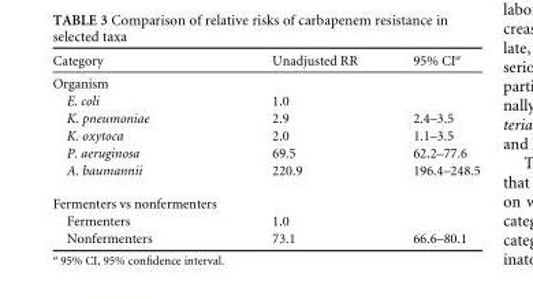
<table><thead><tr><td>Category</td><td>Unadjusted RR</td><td>95% CI<sup>a</sup></td></tr></thead><tbody><tr><td colspan="3">Organism</td></tr><tr><td>E. coli</td><td>1.0</td><td></td></tr><tr><td>K. pneumoniae</td><td>2.9</td><td>2.4–3.5</td></tr><tr><td>K. oxytoca</td><td>2.0</td><td>1.1–3.5</td></tr><tr><td>P. aeruginosa</td><td>69.5</td><td>62.2–77.6</td></tr><tr><td>A. baumannii</td><td>220.9</td><td>196.4–248.5</td></tr><tr><td colspan="3">Fermenters vs nonfermenters</td></tr><tr><td>Fermenters</td><td>1.0</td><td></td></tr><tr><td>Nonfermenters</td><td>73.1</td><td>66.6–80.1</td></tr></tbody></table>